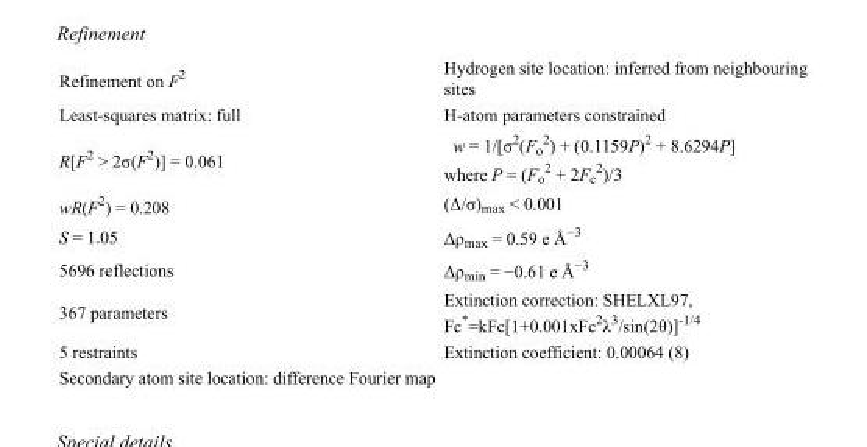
<table><tbody><tr><td>Refinement on F<sup>2</sup></td><td>Hydrogen site location: inferred from neighbouring sites</td></tr><tr><td>Least-squares matrix: full</td><td>H-atom parameters constrained</td></tr><tr><td>R[F<sup>2</sup> &gt; 2σ(F<sup>2</sup>)] = 0.061</td><td>w = 1/[σ<sup>2</sup>(F<sub>o</sub> <sup>2</sup>) + (0.1159P)<sup>2</sup> + 8.6294P] where P = (F<sub>o</sub> <sup>2</sup> + 2F<sub>c</sub> <sup>2</sup>)/3</td></tr><tr><td>wR(F<sup>2</sup>) = 0.208</td><td>(Δ/σ)<sub>max</sub> &lt; 0.001</td></tr><tr><td>S = 1.05</td><td>Δρ<sub>max</sub> = 0.59 e Å<sup>−3</sup></td></tr><tr><td>5696 reflections</td><td>Δρ<sub>min</sub> = −0.61 e Å<sup>−3</sup></td></tr><tr><td>367 parameters</td><td>Extinction correction: SHELXL97, Fc*=kFc[1+0.001xFc<sup>2</sup>λ<sup>3</sup>/sin(2θ)]<sup>-1/4</sup></td></tr><tr><td>5 restraints</td><td>Extinction coefficient: 0.00064 (8)</td></tr><tr><td>Secondary atom site location: difference Fourier map</td><td></td></tr></tbody></table>